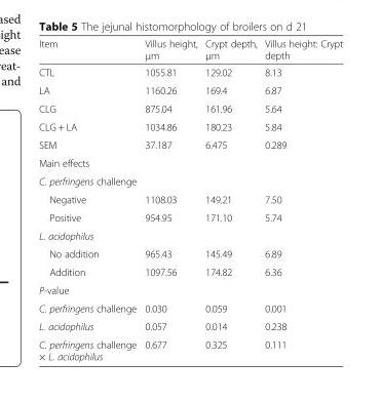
<table><thead><tr><td>Item</td><td>Villus height, μm</td><td>Crypt depth, μm</td><td>Villus height: Crypt depth</td></tr></thead><tbody><tr><td>CTL</td><td>1055.81</td><td>129.02</td><td>8.13</td></tr><tr><td>LA</td><td>1160.26</td><td>169.4</td><td>6.87</td></tr><tr><td>CLG</td><td>875.04</td><td>161.96</td><td>5.64</td></tr><tr><td>CLG + LA</td><td>1034.86</td><td>180.23</td><td>5.84</td></tr><tr><td>SEM</td><td>37.187</td><td>6.475</td><td>0.289</td></tr><tr><td colspan="4">Main effects</td></tr><tr><td colspan="4">C. perfringens challenge</td></tr><tr><td>Negative</td><td>1108.03</td><td>149.21</td><td>7.50</td></tr><tr><td>Positive</td><td>954.95</td><td>171.10</td><td>5.74</td></tr><tr><td colspan="4">L. acidophilus</td></tr><tr><td>No addition</td><td>965.43</td><td>145.49</td><td>6.89</td></tr><tr><td>Addition</td><td>1097.56</td><td>174.82</td><td>6.36</td></tr><tr><td colspan="4">P-value</td></tr><tr><td>C. perfringens challenge</td><td>0.030</td><td>0.059</td><td>0.001</td></tr><tr><td>L. acidophilus</td><td>0.057</td><td>0.014</td><td>0.238</td></tr><tr><td>C. perfringens challenge × L. acidophilus</td><td>0.677</td><td>0.325</td><td>0.111</td></tr></tbody></table>